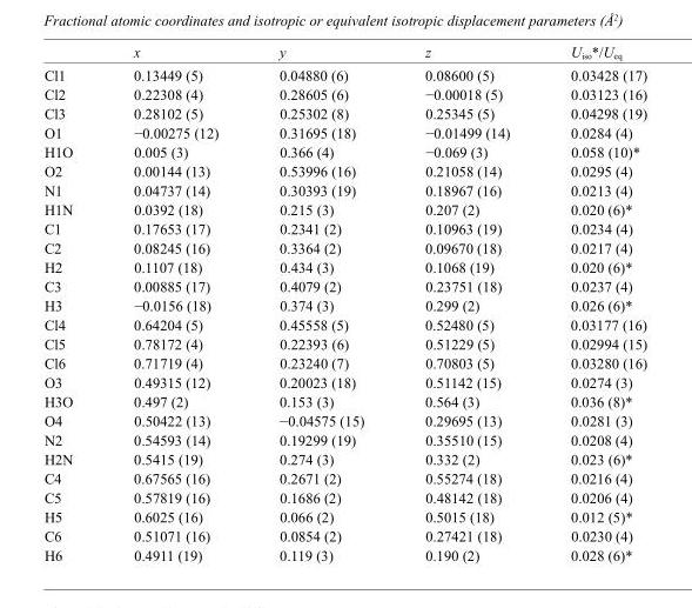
<table><thead><tr><td></td><td>x</td><td>y</td><td>z</td><td>U<sub>iso</sub>*/U<sub>eq</sub></td></tr></thead><tbody><tr><td>Cl1</td><td>0.13449 (5)</td><td>0.04880 (6)</td><td>0.08600 (5)</td><td>0.03428 (17)</td></tr><tr><td>Cl2</td><td>0.22308 (4)</td><td>0.28605 (6)</td><td>−0.00018 (5)</td><td>0.03123 (16)</td></tr><tr><td>Cl3</td><td>0.28102 (5)</td><td>0.25302 (8)</td><td>0.25345 (5)</td><td>0.04298 (19)</td></tr><tr><td>O1</td><td>−0.00275 (12)</td><td>0.31695 (18)</td><td>−0.01499 (14)</td><td>0.0284 (4)</td></tr><tr><td>H1O</td><td>0.005 (3)</td><td>0.366 (4)</td><td>−0.069 (3)</td><td>0.058 (10)*</td></tr><tr><td>O2</td><td>0.00144 (13)</td><td>0.53996 (16)</td><td>0.21058 (14)</td><td>0.0295 (4)</td></tr><tr><td>N1</td><td>0.04737 (14)</td><td>0.30393 (19)</td><td>0.18967 (16)</td><td>0.0213 (4)</td></tr><tr><td>H1N</td><td>0.0392 (18)</td><td>0.215 (3)</td><td>0.207 (2)</td><td>0.020 (6)*</td></tr><tr><td>C1</td><td>0.17653 (17)</td><td>0.2341 (2)</td><td>0.10963 (19)</td><td>0.0234 (4)</td></tr><tr><td>C2</td><td>0.08245 (16)</td><td>0.3364 (2)</td><td>0.09670 (18)</td><td>0.0217 (4)</td></tr><tr><td>H2</td><td>0.1107 (18)</td><td>0.434 (3)</td><td>0.1068 (19)</td><td>0.020 (6)*</td></tr><tr><td>C3</td><td>0.00885 (17)</td><td>0.4079 (2)</td><td>0.23751 (18)</td><td>0.0237 (4)</td></tr><tr><td>H3</td><td>−0.0156 (18)</td><td>0.374 (3)</td><td>0.299 (2)</td><td>0.026 (6)*</td></tr><tr><td>Cl4</td><td>0.64204 (5)</td><td>0.45558 (5)</td><td>0.52480 (5)</td><td>0.03177 (16)</td></tr><tr><td>Cl5</td><td>0.78172 (4)</td><td>0.22393 (6)</td><td>0.51229 (5)</td><td>0.02994 (15)</td></tr><tr><td>Cl6</td><td>0.71719 (4)</td><td>0.23240 (7)</td><td>0.70803 (5)</td><td>0.03280 (16)</td></tr><tr><td>O3</td><td>0.49315 (12)</td><td>0.20023 (18)</td><td>0.51142 (15)</td><td>0.0274 (3)</td></tr><tr><td>H3O</td><td>0.497 (2)</td><td>0.153 (3)</td><td>0.564 (3)</td><td>0.036 (8)*</td></tr><tr><td>O4</td><td>0.50422 (13)</td><td>−0.04575 (15)</td><td>0.29695 (13)</td><td>0.0281 (3)</td></tr><tr><td>N2</td><td>0.54593 (14)</td><td>0.19299 (19)</td><td>0.35510 (15)</td><td>0.0208 (4)</td></tr><tr><td>H2N</td><td>0.5415 (19)</td><td>0.274 (3)</td><td>0.332 (2)</td><td>0.023 (6)*</td></tr><tr><td>C4</td><td>0.67565 (16)</td><td>0.2671 (2)</td><td>0.55274 (18)</td><td>0.0216 (4)</td></tr><tr><td>C5</td><td>0.57819 (16)</td><td>0.1686 (2)</td><td>0.48142 (18)</td><td>0.0206 (4)</td></tr><tr><td>H5</td><td>0.6025 (16)</td><td>0.066 (2)</td><td>0.5015 (18)</td><td>0.012 (5)*</td></tr><tr><td>C6</td><td>0.51071 (16)</td><td>0.0854 (2)</td><td>0.27421 (18)</td><td>0.0230 (4)</td></tr><tr><td>H6</td><td>0.4911 (19)</td><td>0.119 (3)</td><td>0.190 (2)</td><td>0.028 (6)*</td></tr></tbody></table>